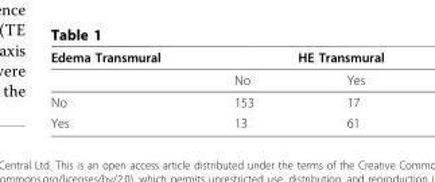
<table><thead><tr><td rowspan="2">Edema Transmural</td><td colspan="2">HE Transmural</td></tr><tr><td>No</td><td>Yes</td></tr></thead><tbody><tr><td>No</td><td>153</td><td>17</td></tr><tr><td>Yes</td><td>13</td><td>61</td></tr></tbody></table>